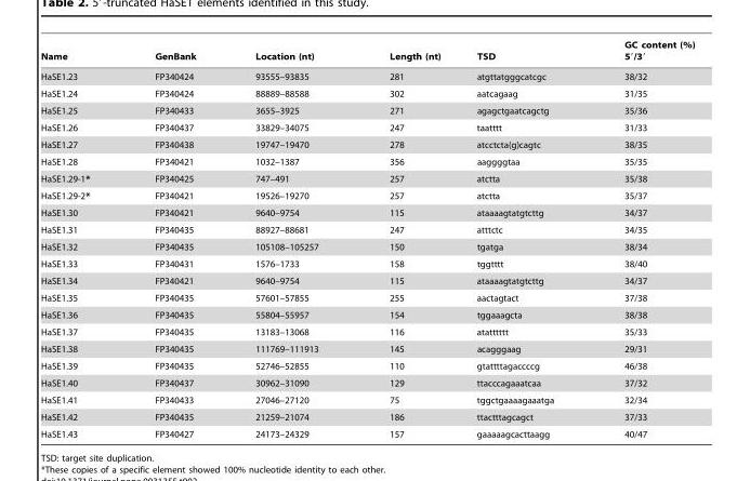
<table><thead><tr><td>Name</td><td>GenBank</td><td>Location (nt)</td><td>Length (nt)</td><td>TSD</td><td>GC content (%) 5′/3′</td></tr></thead><tbody><tr><td>HaSE1.23</td><td>FP340424</td><td>93555–93835</td><td>281</td><td>atgttatgggcatcgc</td><td>38/32</td></tr><tr><td>HaSE1.24</td><td>FP340424</td><td>88889–88588</td><td>302</td><td>aatcagaag</td><td>31/35</td></tr><tr><td>HaSE1.25</td><td>FP340433</td><td>3655–3925</td><td>271</td><td>agagctgaatcagctg</td><td>35/36</td></tr><tr><td>HaSE1.26</td><td>FP340437</td><td>33829–34075</td><td>247</td><td>taatttt</td><td>31/33</td></tr><tr><td>HaSE1.27</td><td>FP340438</td><td>19747–19470</td><td>278</td><td>atcctcta(g)cagtc</td><td>38/35</td></tr><tr><td>HaSE1.28</td><td>FP340421</td><td>1032–1387</td><td>356</td><td>aaggggtaa</td><td>35/35</td></tr><tr><td>HaSE1.29-1*</td><td>FP340425</td><td>747–491</td><td>257</td><td>atctta</td><td>35/38</td></tr><tr><td>HaSE1.29-2*</td><td>FP340421</td><td>19526–19270</td><td>257</td><td>atctta</td><td>35/37</td></tr><tr><td>HaSE1.30</td><td>FP340421</td><td>9640–9754</td><td>115</td><td>ataaaagtatgtcttg</td><td>34/37</td></tr><tr><td>HaSE1.31</td><td>FP340435</td><td>88927–88681</td><td>247</td><td>atttctc</td><td>34/35</td></tr><tr><td>HaSE1.32</td><td>FP340435</td><td>105108–105257</td><td>150</td><td>tgatga</td><td>38/34</td></tr><tr><td>HaSE1.33</td><td>FP340431</td><td>1576–1733</td><td>158</td><td>tggtttt</td><td>38/40</td></tr><tr><td>HaSE1.34</td><td>FP340421</td><td>9640–9754</td><td>115</td><td>ataaaagtatgtcttg</td><td>34/37</td></tr><tr><td>HaSE1.35</td><td>FP340435</td><td>57601–57855</td><td>255</td><td>aactagtact</td><td>37/38</td></tr><tr><td>HaSE1.36</td><td>FP340435</td><td>55804–55957</td><td>154</td><td>tggaaagcta</td><td>38/38</td></tr><tr><td>HaSE1.37</td><td>FP340435</td><td>13183–13068</td><td>116</td><td>atatttttt</td><td>35/33</td></tr><tr><td>HaSE1.38</td><td>FP340435</td><td>111769–111913</td><td>145</td><td>acagggaag</td><td>29/31</td></tr><tr><td>HaSE1.39</td><td>FP340435</td><td>52746–52855</td><td>110</td><td>gtattttagaccccg</td><td>46/38</td></tr><tr><td>HaSE1.40</td><td>FP340437</td><td>30962–31090</td><td>129</td><td>ttacccagaaatcaa</td><td>37/32</td></tr><tr><td>HaSE1.41</td><td>FP340433</td><td>27046–27120</td><td>75</td><td>tggctgaaaagaaatga</td><td>32/34</td></tr><tr><td>HaSE1.42</td><td>FP340435</td><td>21259–21074</td><td>186</td><td>ttactttagcagct</td><td>37/33</td></tr><tr><td>HaSE1.43</td><td>FP340427</td><td>24173–24329</td><td>157</td><td>gaaaaagcacttaagg</td><td>40/47</td></tr></tbody></table>